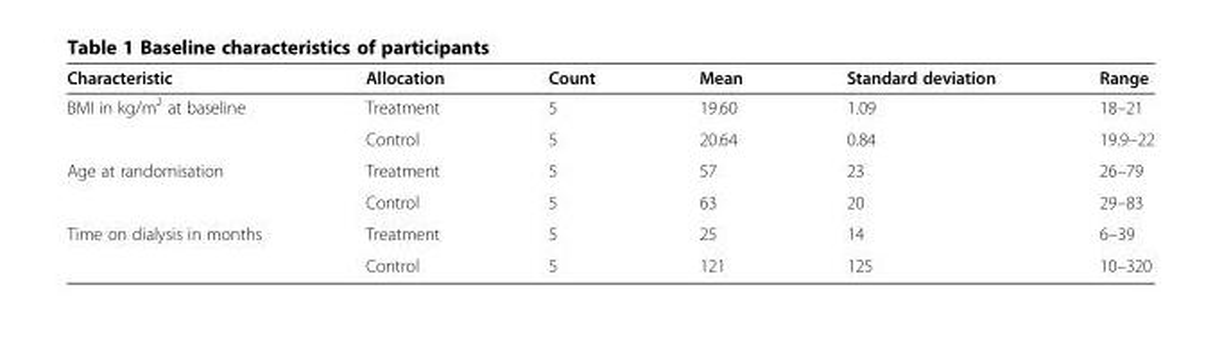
<table><thead><tr><td>Characteristic</td><td>Allocation</td><td>Count</td><td>Mean</td><td>Standard deviation</td><td>Range</td></tr></thead><tbody><tr><td rowspan="2">BMI in kg/m<sup>2</sup> at baseline</td><td>Treatment</td><td>5</td><td>19.60</td><td>1.09</td><td>18–21</td></tr><tr><td>Control</td><td>5</td><td>20.64</td><td>0.84</td><td>19.9–22</td></tr><tr><td rowspan="2">Age at randomisation</td><td>Treatment</td><td>5</td><td>57</td><td>23</td><td>26–79</td></tr><tr><td>Control</td><td>5</td><td>63</td><td>20</td><td>29–83</td></tr><tr><td rowspan="2">Time on dialysis in months</td><td>Treatment</td><td>5</td><td>25</td><td>14</td><td>6–39</td></tr><tr><td>Control</td><td>5</td><td>121</td><td>125</td><td>10–320</td></tr></tbody></table>